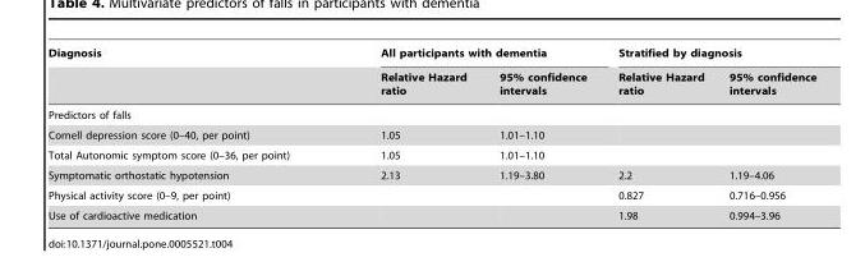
<table><thead><tr><td rowspan="2">Diagnosis</td><td colspan="2">All participants with dementia</td><td colspan="2">Stratified by diagnosis</td></tr><tr><td>Relative Hazard ratio</td><td>95% confidence intervals</td><td>Relative Hazard ratio</td><td>95% confidence intervals</td></tr></thead><tbody><tr><td colspan="5">Predictors of falls</td></tr><tr><td>Cornell depression score (0–40, per point)</td><td>1.05</td><td>1.01–1.10</td><td></td><td></td></tr><tr><td>Total Autonomic symptom score (0–36, per point)</td><td>1.05</td><td>1.01–1.10</td><td></td><td></td></tr><tr><td>Symptomatic orthostatic hypotension</td><td>2.13</td><td>1.19–3.80</td><td>2.2</td><td>1.19–4.06</td></tr><tr><td>Physical activity score (0–9, per point)</td><td></td><td></td><td>0.827</td><td>0.716–0.956</td></tr><tr><td>Use of cardioactive medication</td><td></td><td></td><td>1.98</td><td>0.994–3.96</td></tr></tbody></table>